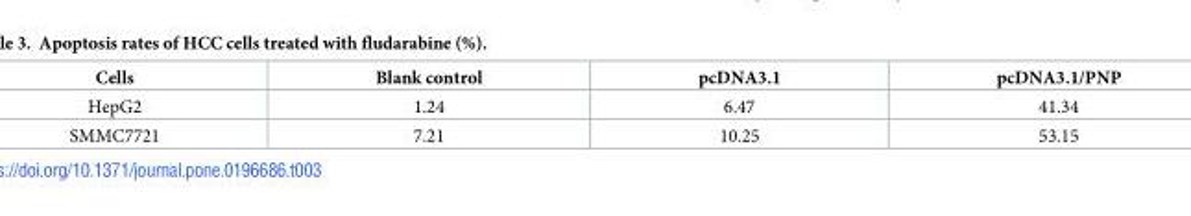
<table><thead><tr><td>Cells</td><td>Blank control</td><td>pcDNA3.1</td><td>pcDNA3.1/PNP</td></tr></thead><tbody><tr><td>HepG2</td><td>1.24</td><td>6.47</td><td>41.34</td></tr><tr><td>SMMC7721</td><td>7.21</td><td>10.25</td><td>53.15</td></tr></tbody></table>